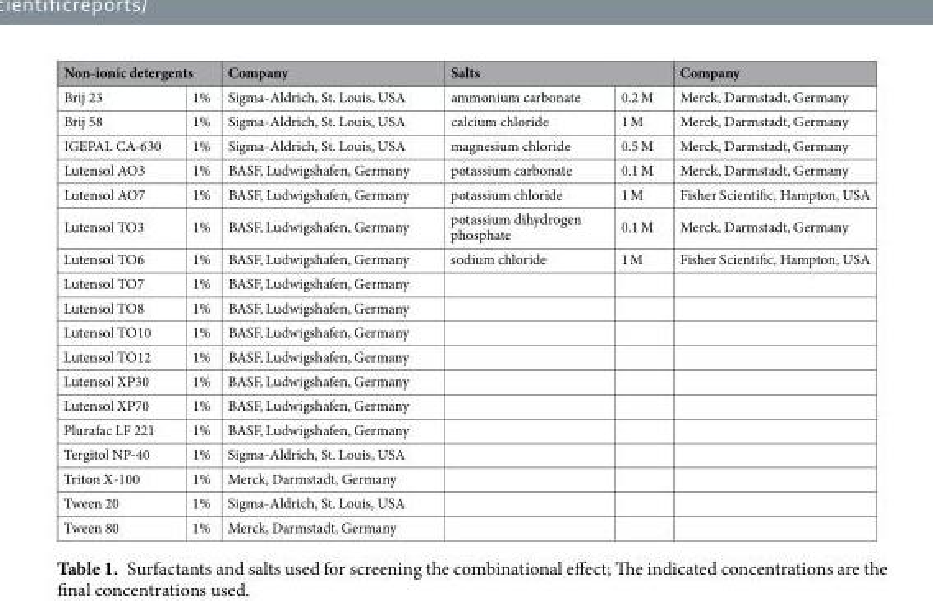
<table><thead><tr><td colspan="2">Non-ionic detergents</td><td rowspan="2">Company Sigma-Aldrich, St. Louis, USA</td><td colspan="2">Salts</td><td rowspan="2">Company Merck, Darmstadt, Germany</td></tr><tr><td>Brij 23</td><td>1%</td><td>ammonium carbonate</td><td>0.2 M</td></tr></thead><tbody><tr><td>Brij 58</td><td>1%</td><td>Sigma-Aldrich, St. Louis, USA</td><td>calcium chloride</td><td>1 M</td><td>Merck, Darmstadt, Germany</td></tr><tr><td>IGEPAL CA-630</td><td>1%</td><td>Sigma-Aldrich, St. Louis, USA</td><td>magnesium chloride</td><td>0.5 M</td><td>Merck, Darmstadt, Germany</td></tr><tr><td>Lutensol AO3</td><td>1%</td><td>BASF, Ludwigshafen, Germany</td><td>potassium carbonate</td><td>0.1 M</td><td>Merck, Darmstadt, Germany</td></tr><tr><td>Lutensol AO7</td><td>1%</td><td>BASF, Ludwigshafen, Germany</td><td>potassium chloride</td><td>1 M</td><td>Fisher Scientific, Hampton, USA</td></tr><tr><td>Lutensol TO3</td><td>1%</td><td>BASF, Ludwigshafen, Germany</td><td>potassium dihydrogen phosphate</td><td>0.1 M</td><td>Merck, Darmstadt, Germany</td></tr><tr><td>Lutensol TO6</td><td>1%</td><td>BASF, Ludwigshafen, Germany</td><td>sodium chloride</td><td>1 M</td><td>Fisher Scientific, Hampton, USA</td></tr><tr><td>Lutensol TO7</td><td>1%</td><td>BASF, Ludwigshafen, Germany</td><td></td><td></td><td></td></tr><tr><td>Lutensol TO8</td><td>1%</td><td>BASF, Ludwigshafen, Germany</td><td></td><td></td><td></td></tr><tr><td>Lutensol TO10</td><td>1%</td><td>BASF, Ludwigshafen, Germany</td><td></td><td></td><td></td></tr><tr><td>Lutensol TO12</td><td>1%</td><td>BASF, Ludwigshafen, Germany</td><td></td><td></td><td></td></tr><tr><td>Lutensol XP30</td><td>1%</td><td>BASF, Ludwigshafen, Germany</td><td></td><td></td><td></td></tr><tr><td>Lutensol XP70</td><td>1%</td><td>BASF, Ludwigshafen, Germany</td><td></td><td></td><td></td></tr><tr><td>Plurafac LF 221</td><td>1%</td><td>BASF, Ludwigshafen, Germany</td><td></td><td></td><td></td></tr><tr><td>Tergitol NP-40</td><td>1%</td><td>Sigma-Aldrich, St. Louis, USA</td><td></td><td></td><td></td></tr><tr><td>Triton X-100</td><td>1%</td><td>Merck, Darmstadt, Germany</td><td></td><td></td><td></td></tr><tr><td>Tween 20</td><td>1%</td><td>Sigma-Aldrich, St. Louis, USA</td><td></td><td></td><td></td></tr><tr><td>Tween 80</td><td>1%</td><td>Merck, Darmstadt, Germany</td><td></td><td></td><td></td></tr></tbody></table>